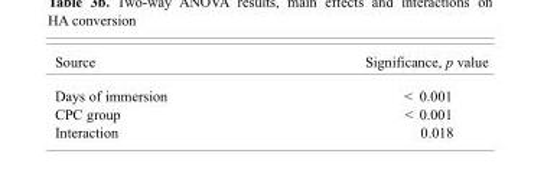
<table><thead><tr><td>Source</td><td>Significance, p value</td></tr></thead><tbody><tr><td>Days of immersion</td><td>&lt; 0.001</td></tr><tr><td>CPC group</td><td>&lt; 0.001</td></tr><tr><td>Interaction</td><td>0.018</td></tr></tbody></table>